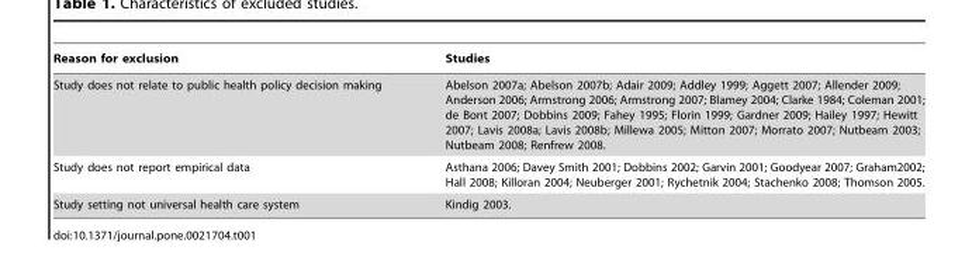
<table><thead><tr><td>Reason for exclusion</td><td>Studies</td></tr></thead><tbody><tr><td>Study does not relate to public health policy decision making</td><td>Abelson 2007a; Abelson 2007b; Adair 2009; Addley 1999; Aggett 2007; Allender 2009; Anderson 2006; Armstrong 2006; Armstrong 2007; Blamey 2004; Clarke 1984; Coleman 2001; de Bont 2007; Dobbins 2009; Fahey 1995; Florin 1999; Gardner 2009; Hailey 1997; Hewitt 2007; Lavis 2008a; Lavis 2008b; Millewa 2005; Mitton 2007; Morrato 2007; Nutbeam 2003; Nutbeam 2008; Renfrew 2008.</td></tr><tr><td>Study does not report empirical data</td><td>Asthana 2006; Davey Smith 2001; Dobbins 2002; Garvin 2001; Goodyear 2007; Graham2002; Hall 2008; Killoran 2004; Neuberger 2001; Rychetnik 2004; Stachenko 2008; Thomson 2005.</td></tr><tr><td>Study setting not universal health care system</td><td>Kindig 2003.</td></tr></tbody></table>